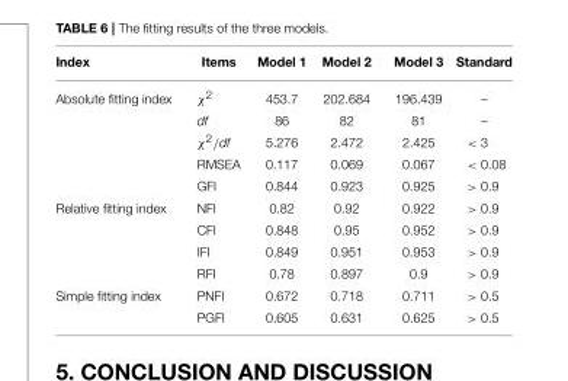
<table><thead><tr><td>Index</td><td>Items</td><td>Model 1</td><td>Model 2</td><td>Model 3</td><td>Standard</td></tr></thead><tbody><tr><td rowspan="5">Absolute fitting index</td><td>χ<sup>2</sup></td><td>453.7</td><td>202.684</td><td>196.439</td><td>–</td></tr><tr><td>df</td><td>86</td><td>82</td><td>81</td><td>–</td></tr><tr><td>χ<sup>2</sup>/df</td><td>5.276</td><td>2.472</td><td>2.425</td><td>&lt; 3</td></tr><tr><td>RMSEA</td><td>0.117</td><td>0.069</td><td>0.067</td><td>&lt; 0.08</td></tr><tr><td>GFI</td><td>0.844</td><td>0.923</td><td>0.925</td><td>&gt; 0.9</td></tr><tr><td rowspan="4">Relative fitting index</td><td>NFI</td><td>0.82</td><td>0.92</td><td>0.922</td><td>&gt; 0.9</td></tr><tr><td>CFI</td><td>0.848</td><td>0.95</td><td>0.952</td><td>&gt; 0.9</td></tr><tr><td>IFI</td><td>0.849</td><td>0.951</td><td>0.953</td><td>&gt; 0.9</td></tr><tr><td>RFI</td><td>0.78</td><td>0.897</td><td>0.9</td><td>&gt; 0.9</td></tr><tr><td rowspan="2">Simple fitting index</td><td>PNFI</td><td>0.672</td><td>0.718</td><td>0.711</td><td>&gt; 0.5</td></tr><tr><td>PGFI</td><td>0.605</td><td>0.631</td><td>0.625</td><td>&gt; 0.5</td></tr></tbody></table>